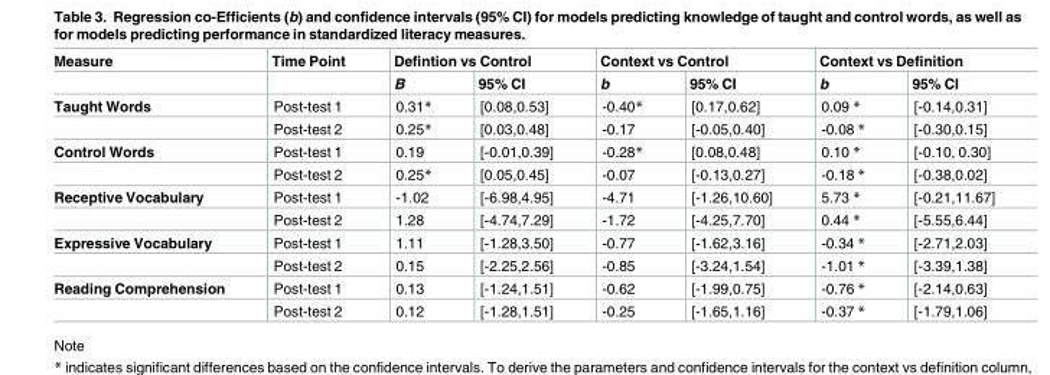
<table><thead><tr><td rowspan="2">Measure</td><td rowspan="2">Time Point</td><td colspan="2">Defintion vs Control</td><td colspan="2">Context vs Control</td><td colspan="2">Context vs Definition</td></tr><tr><td>B</td><td>95% CI</td><td>b</td><td>95% CI</td><td>b</td><td>95% CI</td></tr></thead><tbody><tr><td rowspan="2">Taught Words</td><td>Post-test 1</td><td>0.31*</td><td>[0.08,0.53]</td><td>-0.40*</td><td>[0.17,0.62]</td><td>0.09 *</td><td>[-0.14,0.31]</td></tr><tr><td>Post-test 2</td><td>0.25*</td><td>[0.03,0.48]</td><td>-0.17</td><td>[-0.05,0.40]</td><td>-0.08 *</td><td>[-0.30,0.15]</td></tr><tr><td rowspan="2">Control Words</td><td>Post-test 1</td><td>0.19</td><td>[-0.01,0.39]</td><td>-0.28*</td><td>[0.08,0.48]</td><td>0.10 *</td><td>[-0.10, 0.30]</td></tr><tr><td>Post-test 2</td><td>0.25*</td><td>[0.05,0.45]</td><td>-0.07</td><td>[-0.13,0.27]</td><td>-0.18 *</td><td>[-0.38,0.02]</td></tr><tr><td rowspan="2">Receptive Vocabulary</td><td>Post-test 1</td><td>-1.02</td><td>[-6.98,4.95]</td><td>-4.71</td><td>[-1.26,10.60]</td><td>5.73 *</td><td>[-0.21,11.67]</td></tr><tr><td>Post-test 2</td><td>1.28</td><td>[-4.74,7.29]</td><td>-1.72</td><td>[-4.25,7.70]</td><td>0.44 *</td><td>[-5.55,6.44]</td></tr><tr><td rowspan="2">Expressive Vocabulary</td><td>Post-test 1</td><td>1.11</td><td>[-1.28,3.50]</td><td>-0.77</td><td>[-1.62,3.16]</td><td>-0.34 *</td><td>[-2.71,2.03]</td></tr><tr><td>Post-test 2</td><td>0.15</td><td>[-2.25,2.56]</td><td>-0.85</td><td>[-3.24,1.54]</td><td>-1.01 *</td><td>[-3.39,1.38]</td></tr><tr><td rowspan="2">Reading Comprehension</td><td>Post-test 1</td><td>0.13</td><td>[-1.24,1.51]</td><td>-0.62</td><td>[-1.99,0.75]</td><td>-0.76 *</td><td>[-2.14,0.63]</td></tr><tr><td>Post-test 2</td><td>0.12</td><td>[-1.28,1.51]</td><td>-0.25</td><td>[-1.65,1.16]</td><td>-0.37 *</td><td>[-1.79,1.06]</td></tr></tbody></table>